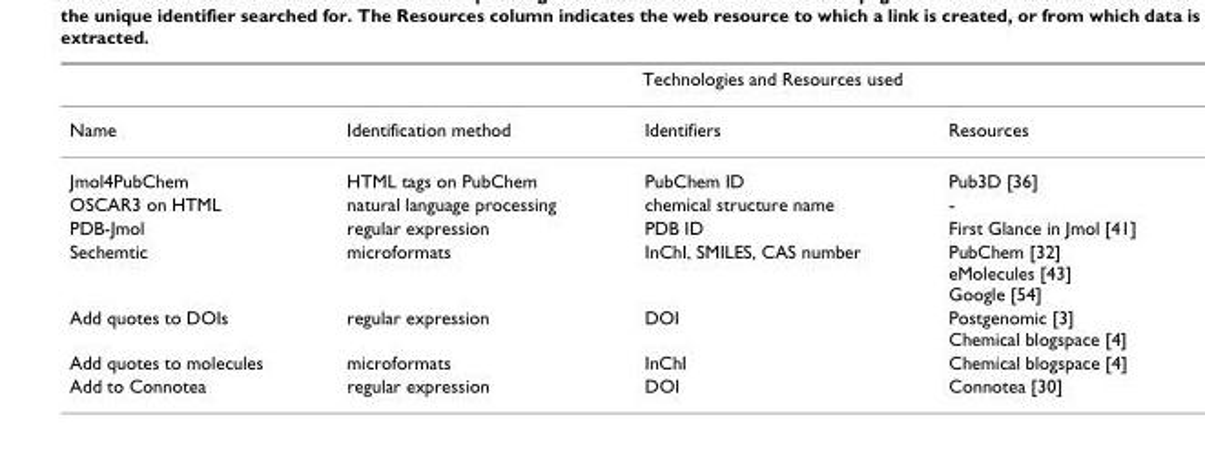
<table><thead><tr><td rowspan="2">Name</td><td colspan="3">Technologies and Resources used</td></tr><tr><td>Identification method</td><td>Identifiers</td><td>Resources</td></tr></thead><tbody><tr><td>Jmol4PubChem</td><td>HTML tags on PubChem</td><td>PubChem ID</td><td>Pub3D [36]</td></tr><tr><td>OSCAR3 on HTML</td><td>natural language processing</td><td>chemical structure name</td><td>-</td></tr><tr><td>PDB-Jmol</td><td>regular expression</td><td>PDB ID</td><td>First Glance in Jmol [41]</td></tr><tr><td>Sechemtic</td><td>microformats</td><td>InChI, SMILES, CAS number</td><td>PubChem [32] eMolecules [43] Google [54]</td></tr><tr><td>Add quotes to DOIs</td><td>regular expression</td><td>DOI</td><td>Postgenomic [3] Chemical blogspace [4]</td></tr><tr><td>Add quotes to molecules</td><td>microformats</td><td>InChI</td><td>Chemical blogspace [4]</td></tr><tr><td>Add to Connotea</td><td>regular expression</td><td>DOI</td><td>Connotea [30]</td></tr></tbody></table>